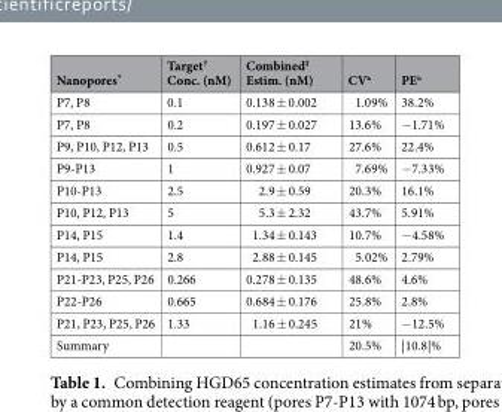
<table><thead><tr><td>Nanopores*</td><td>Target<sup>†</sup> Conc. (nM)</td><td>Combined<sup>‡</sup> Estim. (nM)</td><td>CV<sup>ь</sup></td><td>PE<sup>ь</sup></td></tr></thead><tbody><tr><td>P7, P8</td><td>0.1</td><td>0.138 ± 0.002</td><td>1.09%</td><td>38.2%</td></tr><tr><td>P7, P8</td><td>0.2</td><td>0.197 ± 0.027</td><td>13.6%</td><td>−1.71%</td></tr><tr><td>P9, P10, P12, P13</td><td>0.5</td><td>0.612 ± 0.17</td><td>27.6%</td><td>22.4%</td></tr><tr><td>P9-P13</td><td>1</td><td>0.927 ± 0.07</td><td>7.69%</td><td>−7.33%</td></tr><tr><td>P10-P13</td><td>2.5</td><td>2.9 ± 0.59</td><td>20.3%</td><td>16.1%</td></tr><tr><td>P10, P12, P13</td><td>5</td><td>5.3 ± 2.32</td><td>43.7%</td><td>5.91%</td></tr><tr><td>P14, P15</td><td>1.4</td><td>1.34 ± 0.143</td><td>10.7%</td><td>−4.58%</td></tr><tr><td>P14, P15</td><td>2.8</td><td>2.88 ± 0.145</td><td>5.02%</td><td>2.79%</td></tr><tr><td>P21-P23, P25, P26</td><td>0.266</td><td>0.278 ± 0.135</td><td>48.6%</td><td>4.6%</td></tr><tr><td>P22-P26</td><td>0.665</td><td>0.684 ± 0.176</td><td>25.8%</td><td>2.8%</td></tr><tr><td>P21, P23, P25, P26</td><td>1.33</td><td>1.16 ± 0.245</td><td>21%</td><td>−12.5%</td></tr><tr><td>Summary</td><td></td><td></td><td>20.5%</td><td>|10.8|%</td></tr></tbody></table>